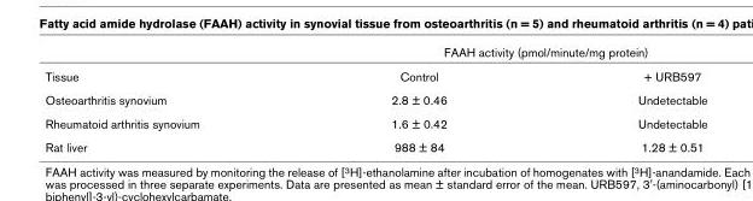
<table><thead><tr><td rowspan="2">Tissue</td><td colspan="2">FAAH activity (pmol/minute/mg protein)</td></tr><tr><td>Control</td><td>+ URB597</td></tr></thead><tbody><tr><td>Osteoarthritis synovium</td><td>2.8 ± 0.46</td><td>Undetectable</td></tr><tr><td>Rheumatoid arthritis synovium</td><td>1.6 ± 0.42</td><td>Undetectable</td></tr><tr><td>Rat liver</td><td>988 ± 84</td><td>1.28 ± 0.51</td></tr></tbody></table>